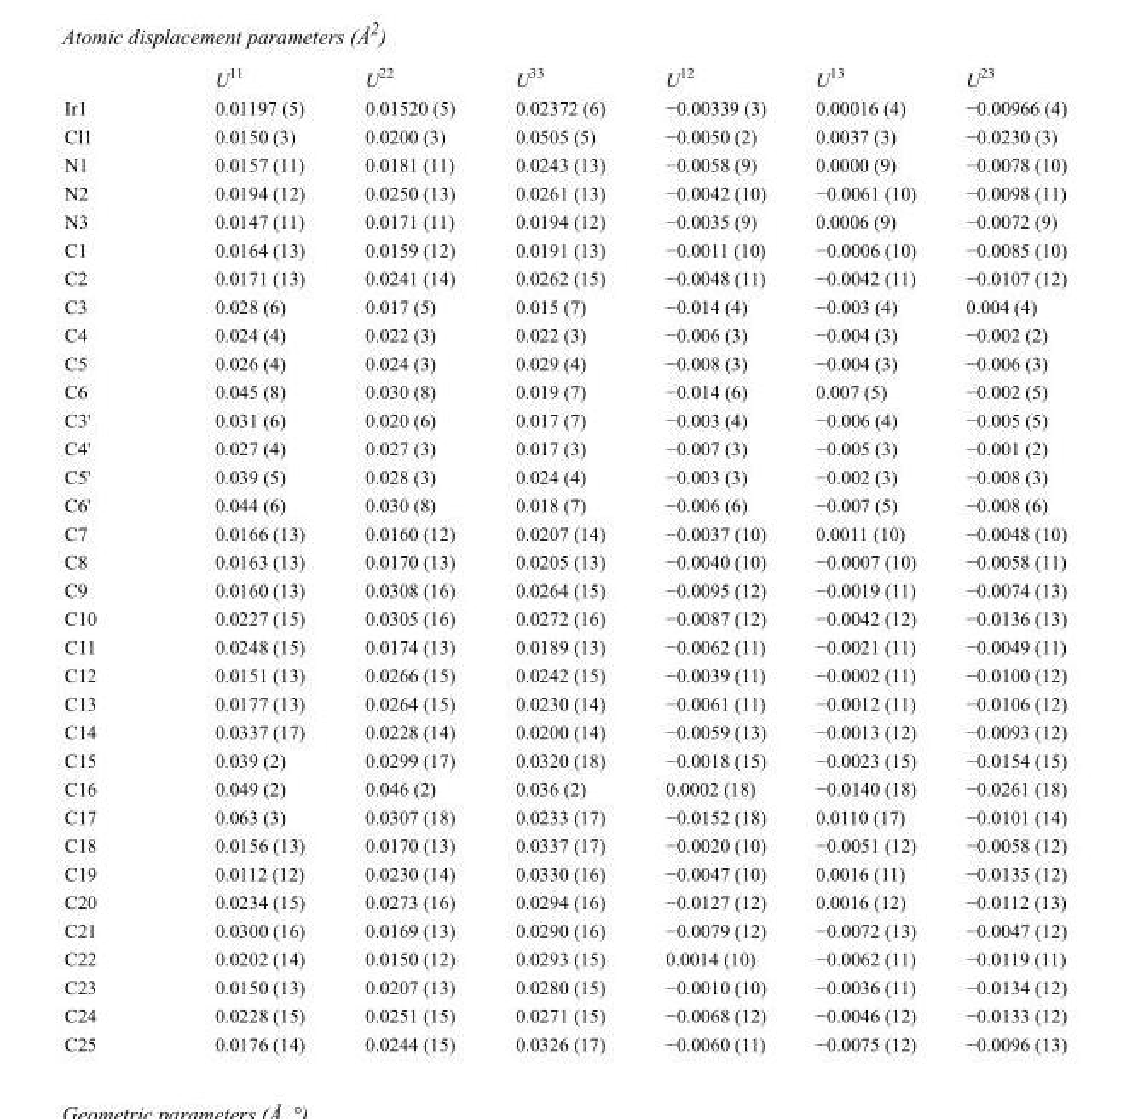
<table><thead><tr><td></td><td>U<sup>11</sup></td><td>U<sup>22</sup></td><td>U<sup>33</sup></td><td>U<sup>12</sup></td><td>U<sup>13</sup></td><td>U<sup>23</sup></td></tr></thead><tbody><tr><td>Ir1</td><td>0.01197 (5)</td><td>0.01520 (5)</td><td>0.02372 (6)</td><td>−0.00339 (3)</td><td>0.00016 (4)</td><td>−0.00966 (4)</td></tr><tr><td>Cl1</td><td>0.0150 (3)</td><td>0.0200 (3)</td><td>0.0505 (5)</td><td>−0.0050 (2)</td><td>0.0037 (3)</td><td>−0.0230 (3)</td></tr><tr><td>N1</td><td>0.0157 (11)</td><td>0.0181 (11)</td><td>0.0243 (13)</td><td>−0.0058 (9)</td><td>0.0000 (9)</td><td>−0.0078 (10)</td></tr><tr><td>N2</td><td>0.0194 (12)</td><td>0.0250 (13)</td><td>0.0261 (13)</td><td>−0.0042 (10)</td><td>−0.0061 (10)</td><td>−0.0098 (11)</td></tr><tr><td>N3</td><td>0.0147 (11)</td><td>0.0171 (11)</td><td>0.0194 (12)</td><td>−0.0035 (9)</td><td>0.0006 (9)</td><td>−0.0072 (9)</td></tr><tr><td>C1</td><td>0.0164 (13)</td><td>0.0159 (12)</td><td>0.0191 (13)</td><td>−0.0011 (10)</td><td>−0.0006 (10)</td><td>−0.0085 (10)</td></tr><tr><td>C2</td><td>0.0171 (13)</td><td>0.0241 (14)</td><td>0.0262 (15)</td><td>−0.0048 (11)</td><td>−0.0042 (11)</td><td>−0.0107 (12)</td></tr><tr><td>C3</td><td>0.028 (6)</td><td>0.017 (5)</td><td>0.015 (7)</td><td>−0.014 (4)</td><td>−0.003 (4)</td><td>0.004 (4)</td></tr><tr><td>C4</td><td>0.024 (4)</td><td>0.022 (3)</td><td>0.022 (3)</td><td>−0.006 (3)</td><td>−0.004 (3)</td><td>−0.002 (2)</td></tr><tr><td>C5</td><td>0.026 (4)</td><td>0.024 (3)</td><td>0.029 (4)</td><td>−0.008 (3)</td><td>−0.004 (3)</td><td>−0.006 (3)</td></tr><tr><td>C6</td><td>0.045 (8)</td><td>0.030 (8)</td><td>0.019 (7)</td><td>−0.014 (6)</td><td>0.007 (5)</td><td>−0.002 (5)</td></tr><tr><td>C3&#x27;</td><td>0.031 (6)</td><td>0.020 (6)</td><td>0.017 (7)</td><td>−0.003 (4)</td><td>−0.006 (4)</td><td>−0.005 (5)</td></tr><tr><td>C4&#x27;</td><td>0.027 (4)</td><td>0.027 (3)</td><td>0.017 (3)</td><td>−0.007 (3)</td><td>−0.005 (3)</td><td>−0.001 (2)</td></tr><tr><td>C5&#x27;</td><td>0.039 (5)</td><td>0.028 (3)</td><td>0.024 (4)</td><td>−0.003 (3)</td><td>−0.002 (3)</td><td>−0.008 (3)</td></tr><tr><td>C6&#x27;</td><td>0.044 (6)</td><td>0.030 (8)</td><td>0.018 (7)</td><td>−0.006 (6)</td><td>−0.007 (5)</td><td>−0.008 (6)</td></tr><tr><td>C7</td><td>0.0166 (13)</td><td>0.0160 (12)</td><td>0.0207 (14)</td><td>−0.0037 (10)</td><td>0.0011 (10)</td><td>−0.0048 (10)</td></tr><tr><td>C8</td><td>0.0163 (13)</td><td>0.0170 (13)</td><td>0.0205 (13)</td><td>−0.0040 (10)</td><td>−0.0007 (10)</td><td>−0.0058 (11)</td></tr><tr><td>C9</td><td>0.0160 (13)</td><td>0.0308 (16)</td><td>0.0264 (15)</td><td>−0.0095 (12)</td><td>−0.0019 (11)</td><td>−0.0074 (13)</td></tr><tr><td>C10</td><td>0.0227 (15)</td><td>0.0305 (16)</td><td>0.0272 (16)</td><td>−0.0087 (12)</td><td>−0.0042 (12)</td><td>−0.0136 (13)</td></tr><tr><td>C11</td><td>0.0248 (15)</td><td>0.0174 (13)</td><td>0.0189 (13)</td><td>−0.0062 (11)</td><td>−0.0021 (11)</td><td>−0.0049 (11)</td></tr><tr><td>C12</td><td>0.0151 (13)</td><td>0.0266 (15)</td><td>0.0242 (15)</td><td>−0.0039 (11)</td><td>−0.0002 (11)</td><td>−0.0100 (12)</td></tr><tr><td>C13</td><td>0.0177 (13)</td><td>0.0264 (15)</td><td>0.0230 (14)</td><td>−0.0061 (11)</td><td>−0.0012 (11)</td><td>−0.0106 (12)</td></tr><tr><td>C14</td><td>0.0337 (17)</td><td>0.0228 (14)</td><td>0.0200 (14)</td><td>−0.0059 (13)</td><td>−0.0013 (12)</td><td>−0.0093 (12)</td></tr><tr><td>C15</td><td>0.039 (2)</td><td>0.0299 (17)</td><td>0.0320 (18)</td><td>−0.0018 (15)</td><td>−0.0023 (15)</td><td>−0.0154 (15)</td></tr><tr><td>C16</td><td>0.049 (2)</td><td>0.046 (2)</td><td>0.036 (2)</td><td>0.0002 (18)</td><td>−0.0140 (18)</td><td>−0.0261 (18)</td></tr><tr><td>C17</td><td>0.063 (3)</td><td>0.0307 (18)</td><td>0.0233 (17)</td><td>−0.0152 (18)</td><td>0.0110 (17)</td><td>−0.0101 (14)</td></tr><tr><td>C18</td><td>0.0156 (13)</td><td>0.0170 (13)</td><td>0.0337 (17)</td><td>−0.0020 (10)</td><td>−0.0051 (12)</td><td>−0.0058 (12)</td></tr><tr><td>C19</td><td>0.0112 (12)</td><td>0.0230 (14)</td><td>0.0330 (16)</td><td>−0.0047 (10)</td><td>0.0016 (11)</td><td>−0.0135 (12)</td></tr><tr><td>C20</td><td>0.0234 (15)</td><td>0.0273 (16)</td><td>0.0294 (16)</td><td>−0.0127 (12)</td><td>0.0016 (12)</td><td>−0.0112 (13)</td></tr><tr><td>C21</td><td>0.0300 (16)</td><td>0.0169 (13)</td><td>0.0290 (16)</td><td>−0.0079 (12)</td><td>−0.0072 (13)</td><td>−0.0047 (12)</td></tr><tr><td>C22</td><td>0.0202 (14)</td><td>0.0150 (12)</td><td>0.0293 (15)</td><td>0.0014 (10)</td><td>−0.0062 (11)</td><td>−0.0119 (11)</td></tr><tr><td>C23</td><td>0.0150 (13)</td><td>0.0207 (13)</td><td>0.0280 (15)</td><td>−0.0010 (10)</td><td>−0.0036 (11)</td><td>−0.0134 (12)</td></tr><tr><td>C24</td><td>0.0228 (15)</td><td>0.0251 (15)</td><td>0.0271 (15)</td><td>−0.0068 (12)</td><td>−0.0046 (12)</td><td>−0.0133 (12)</td></tr><tr><td>C25</td><td>0.0176 (14)</td><td>0.0244 (15)</td><td>0.0326 (17)</td><td>−0.0060 (11)</td><td>−0.0075 (12)</td><td>−0.0096 (13)</td></tr></tbody></table>